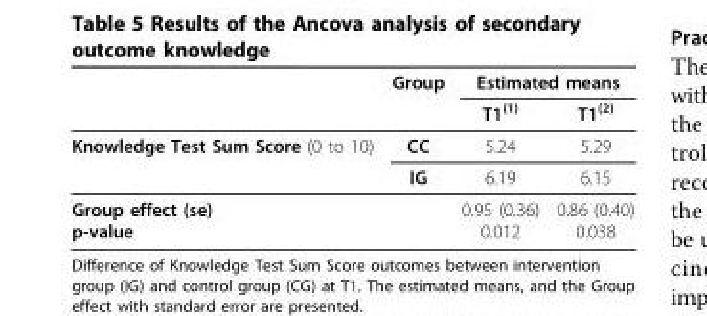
<table><thead><tr><td rowspan="2"></td><td rowspan="2">Group</td><td colspan="2">Estimated means</td></tr><tr><td>T1<sup>(1)</sup></td><td>T1<sup>(2)</sup></td></tr></thead><tbody><tr><td rowspan="2">Knowledge Test Sum Score (0 to 10)</td><td>CC</td><td>5.24</td><td>5.29</td></tr><tr><td>IG</td><td>6.19</td><td>6.15</td></tr><tr><td colspan="2">Group effect (se) p-value</td><td>0.95 (0.36) 0.012</td><td>0.86 (0.40) 0.038</td></tr></tbody></table>